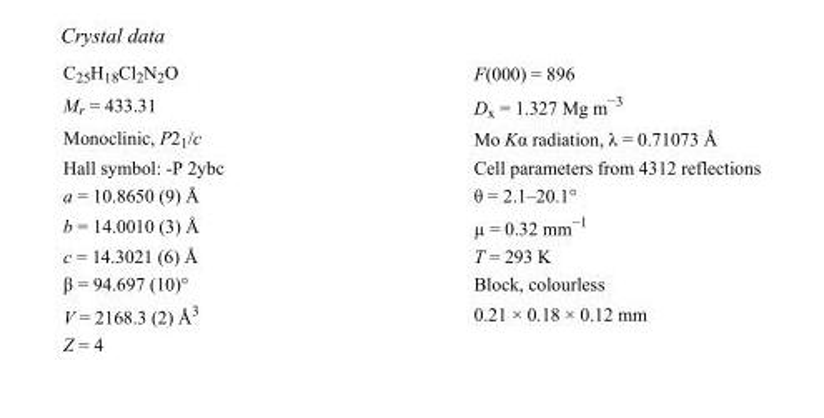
<table><tbody><tr><td>C<sub>25</sub>H<sub>18</sub>Cl<sub>2</sub>N<sub>2</sub>O</td><td>F(000) = 896</td></tr><tr><td>M<sub>r</sub> = 433.31</td><td>D<sub>x</sub> = 1.327 Mg m<sup>−3</sup></td></tr><tr><td>Monoclinic, P2<sub>1</sub>/c</td><td>Mo Kα radiation, λ = 0.71073 Å</td></tr><tr><td>Hall symbol: -P 2ybc</td><td>Cell parameters from 4312 reflections</td></tr><tr><td>a = 10.8650 (9) Å</td><td>θ = 2.1–20.1°</td></tr><tr><td>b = 14.0010 (3) Å</td><td>µ = 0.32 mm<sup>−1</sup></td></tr><tr><td>c = 14.3021 (6) Å</td><td>T = 293 K</td></tr><tr><td>β = 94.697 (10)°</td><td>Block, colourless</td></tr><tr><td>V = 2168.3 (2) Å<sup>3</sup></td><td>0.21 × 0.18 × 0.12 mm</td></tr><tr><td>Z = 4</td><td></td></tr></tbody></table>